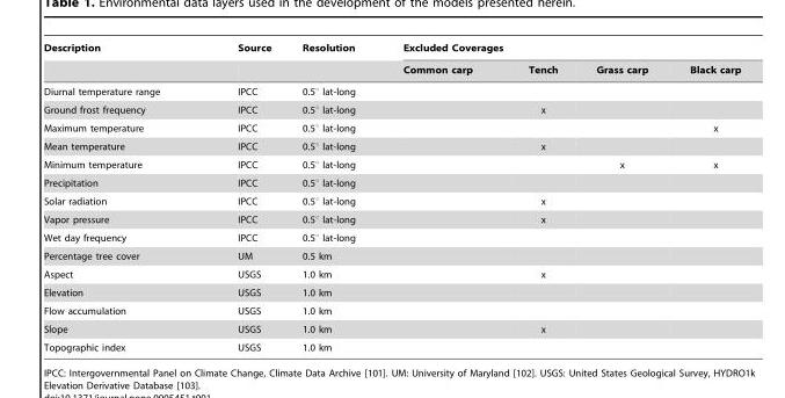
<table><thead><tr><td rowspan="2">Description</td><td rowspan="2">Source</td><td rowspan="2">Resolution</td><td colspan="4">Excluded Coverages</td></tr><tr><td>Common carp</td><td>Tench</td><td>Grass carp</td><td>Black carp</td></tr></thead><tbody><tr><td>Diurnal temperature range</td><td>IPCC</td><td>0.5° lat-long</td><td></td><td></td><td></td><td></td></tr><tr><td>Ground frost frequency</td><td>IPCC</td><td>0.5° lat-long</td><td></td><td>x</td><td></td><td></td></tr><tr><td>Maximum temperature</td><td>IPCC</td><td>0.5° lat-long</td><td></td><td></td><td></td><td>x</td></tr><tr><td>Mean temperature</td><td>IPCC</td><td>0.5° lat-long</td><td></td><td>x</td><td></td><td></td></tr><tr><td>Minimum temperature</td><td>IPCC</td><td>0.5° lat-long</td><td></td><td></td><td>x</td><td>x</td></tr><tr><td>Precipitation</td><td>IPCC</td><td>0.5° lat-long</td><td></td><td></td><td></td><td></td></tr><tr><td>Solar radiation</td><td>IPCC</td><td>0.5° lat-long</td><td></td><td>x</td><td></td><td></td></tr><tr><td>Vapor pressure</td><td>IPCC</td><td>0.5° lat-long</td><td></td><td>x</td><td></td><td></td></tr><tr><td>Wet day frequency</td><td>IPCC</td><td>0.5° lat-long</td><td></td><td></td><td></td><td></td></tr><tr><td>Percentage tree cover</td><td>UM</td><td>0.5 km</td><td></td><td></td><td></td><td></td></tr><tr><td>Aspect</td><td>USGS</td><td>1.0 km</td><td></td><td>x</td><td></td><td></td></tr><tr><td>Elevation</td><td>USGS</td><td>1.0 km</td><td></td><td></td><td></td><td></td></tr><tr><td>Flow accumulation</td><td>USGS</td><td>1.0 km</td><td></td><td></td><td></td><td></td></tr><tr><td>Slope</td><td>USGS</td><td>1.0 km</td><td></td><td>x</td><td></td><td></td></tr><tr><td>Topographic index</td><td>USGS</td><td>1.0 km</td><td></td><td></td><td></td><td></td></tr></tbody></table>